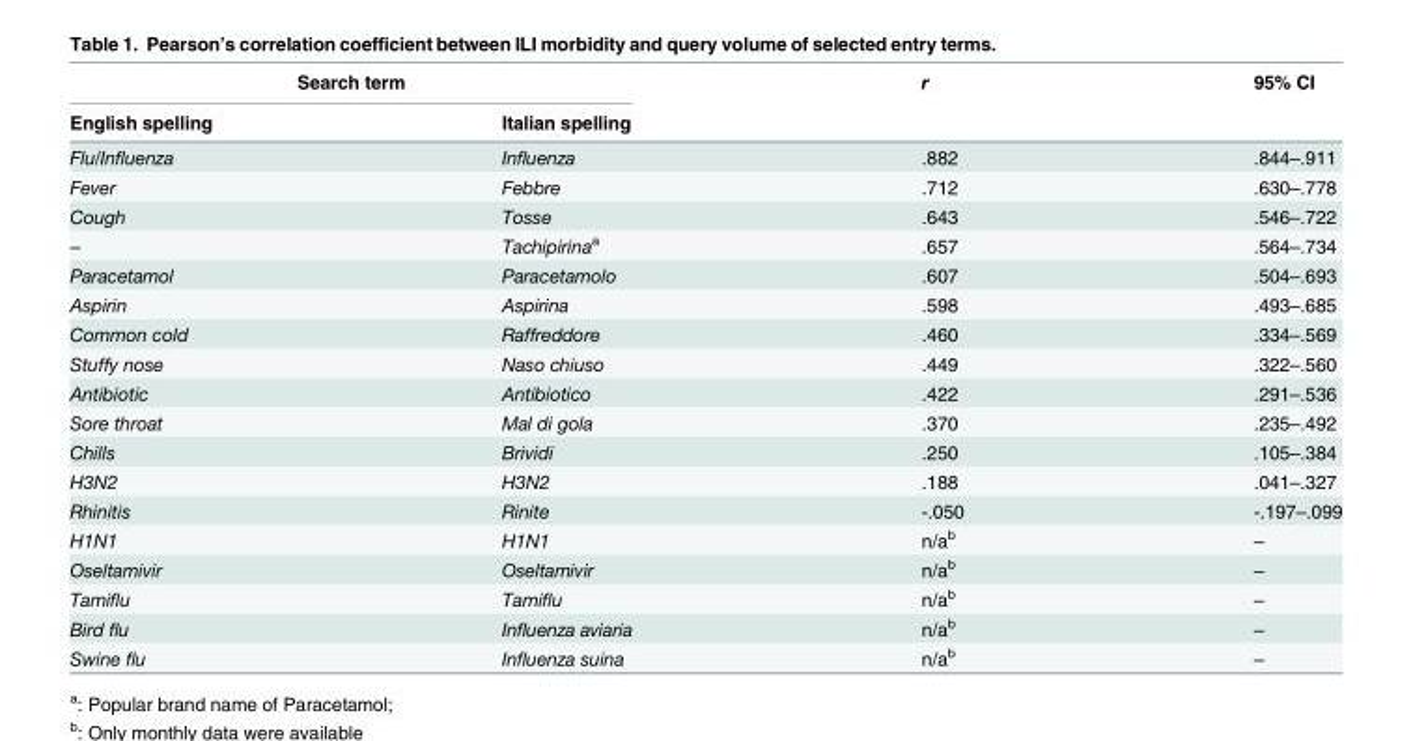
<table><thead><tr><td colspan="2">Search term</td><td rowspan="2">r</td><td rowspan="2">95% CI</td></tr><tr><td>English spelling</td><td>Italian spelling</td></tr></thead><tbody><tr><td>Flu/Influenza</td><td>Influenza</td><td>.882</td><td>.844–.911</td></tr><tr><td>Fever</td><td>Febbre</td><td>.712</td><td>.630–.778</td></tr><tr><td>Cough</td><td>Tosse</td><td>.643</td><td>.546–.722</td></tr><tr><td>–</td><td>Tachipirina<sup>a</sup></td><td>.657</td><td>.564–.734</td></tr><tr><td>Paracetamol</td><td>Paracetamolo</td><td>.607</td><td>.504–.693</td></tr><tr><td>Aspirin</td><td>Aspirina</td><td>.598</td><td>.493–.685</td></tr><tr><td>Common cold</td><td>Raffreddore</td><td>.460</td><td>.334–.569</td></tr><tr><td>Stuffy nose</td><td>Naso chiuso</td><td>.449</td><td>.322–.560</td></tr><tr><td>Antibiotic</td><td>Antibiotico</td><td>.422</td><td>.291–.536</td></tr><tr><td>Sore throat</td><td>Mal di gola</td><td>.370</td><td>.235–.492</td></tr><tr><td>Chills</td><td>Brividi</td><td>.250</td><td>.105–.384</td></tr><tr><td>H3N2</td><td>H3N2</td><td>.188</td><td>.041–.327</td></tr><tr><td>Rhinitis</td><td>Rinite</td><td>-.050</td><td>-.197–.099</td></tr><tr><td>H1N1</td><td>H1N1</td><td>n/a<sup>b</sup></td><td>–</td></tr><tr><td>Oseltamivir</td><td>Oseltamivir</td><td>n/a<sup>b</sup></td><td>–</td></tr><tr><td>Tamiflu</td><td>Tamiflu</td><td>n/a<sup>b</sup></td><td>–</td></tr><tr><td>Bird flu</td><td>Influenza aviaria</td><td>n/a<sup>b</sup></td><td>–</td></tr><tr><td>Swine flu</td><td>Influenza suina</td><td>n/a<sup>b</sup></td><td>–</td></tr></tbody></table>